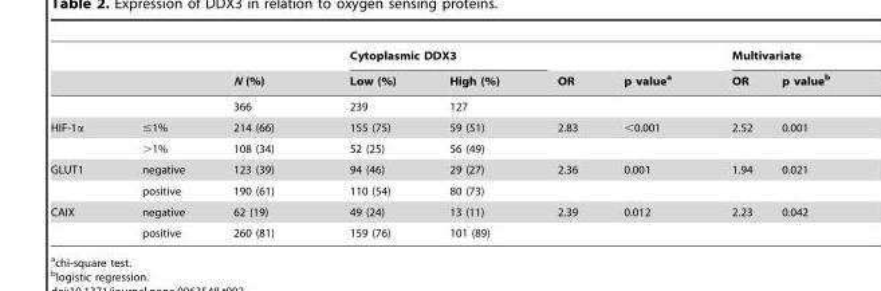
<table><thead><tr><td rowspan="2"></td><td rowspan="2"></td><td rowspan="2">N (%)</td><td colspan="2">Cytoplasmic DDX3</td><td rowspan="2">OR</td><td rowspan="2">p value<sup>a</sup></td><td colspan="2">Multivariate</td></tr><tr><td>Low (%)</td><td>High (%)</td><td>OR</td><td>p value<sup>b</sup></td></tr></thead><tbody><tr><td></td><td></td><td>366</td><td>239</td><td>127</td><td></td><td></td><td></td><td></td></tr><tr><td rowspan="2">HIF-1α</td><td>≤1%</td><td>214 (66)</td><td>155 (75)</td><td>59 (51)</td><td>2.83</td><td>&lt;0.001</td><td>2.52</td><td>0.001</td></tr><tr><td>&gt;1%</td><td>108 (34)</td><td>52 (25)</td><td>56 (49)</td><td></td><td></td><td></td><td></td></tr><tr><td rowspan="2">GLUT1</td><td>negative</td><td>123 (39)</td><td>94 (46)</td><td>29 (27)</td><td>2.36</td><td>0.001</td><td>1.94</td><td>0.021</td></tr><tr><td>positive</td><td>190 (61)</td><td>110 (54)</td><td>80 (73)</td><td></td><td></td><td></td><td></td></tr><tr><td rowspan="2">CAIX</td><td>negative</td><td>62 (19)</td><td>49 (24)</td><td>13 (11)</td><td>2.39</td><td>0.012</td><td>2.23</td><td>0.042</td></tr><tr><td>positive</td><td>260 (81)</td><td>159 (76)</td><td>101 (89)</td><td></td><td></td><td></td><td></td></tr></tbody></table>